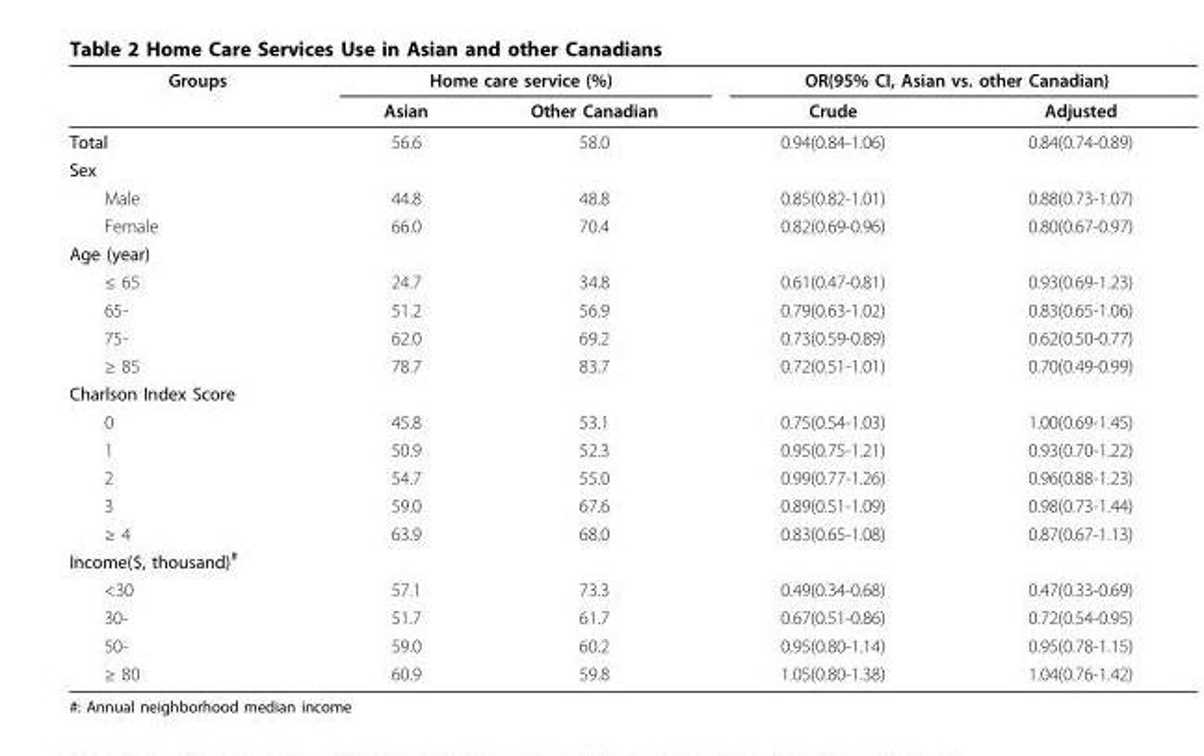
<table><thead><tr><td rowspan="2">Groups</td><td colspan="2">Home care service (%)</td><td colspan="2">OR(95% CI, Asian vs. other Canadian)</td></tr><tr><td>Asian</td><td>Other Canadian</td><td>Crude</td><td>Adjusted</td></tr></thead><tbody><tr><td>Total</td><td>56.6</td><td>58.0</td><td>0.94(0.84-1.06)</td><td>0.84(0.74-0.89)</td></tr><tr><td colspan="5">Sex</td></tr><tr><td>Male</td><td>44.8</td><td>48.8</td><td>0.85(0.82-1.01)</td><td>0.88(0.73-1.07)</td></tr><tr><td>Female</td><td>66.0</td><td>70.4</td><td>0.82(0.69-0.96)</td><td>0.80(0.67-0.97)</td></tr><tr><td colspan="5">Age (year)</td></tr><tr><td>≤ 65</td><td>24.7</td><td>34.8</td><td>0.61(0.47-0.81)</td><td>0.93(0.69-1.23)</td></tr><tr><td>65-</td><td>51.2</td><td>56.9</td><td>0.79(0.63-1.02)</td><td>0.83(0.65-1.06)</td></tr><tr><td>75-</td><td>62.0</td><td>69.2</td><td>0.73(0.59-0.89)</td><td>0.62(0.50-0.77)</td></tr><tr><td>≥ 85</td><td>78.7</td><td>83.7</td><td>0.72(0.51-1.01)</td><td>0.70(0.49-0.99)</td></tr><tr><td colspan="5">Charlson Index Score</td></tr><tr><td>0</td><td>45.8</td><td>53.1</td><td>0.75(0.54-1.03)</td><td>1.00(0.69-1.45)</td></tr><tr><td>1</td><td>50.9</td><td>52.3</td><td>0.95(0.75-1.21)</td><td>0.93(0.70-1.22)</td></tr><tr><td>2</td><td>54.7</td><td>55.0</td><td>0.99(0.77-1.26)</td><td>0.96(0.88-1.23)</td></tr><tr><td>3</td><td>59.0</td><td>67.6</td><td>0.89(0.51-1.09)</td><td>0.98(0.73-1.44)</td></tr><tr><td>≥ 4</td><td>63.9</td><td>68.0</td><td>0.83(0.65-1.08)</td><td>0.87(0.67-1.13)</td></tr><tr><td colspan="5">Income($, thousand)<sup>#</sup></td></tr><tr><td>&lt;30</td><td>57.1</td><td>73.3</td><td>0.49(0.34-0.68)</td><td>0.47(0.33-0.69)</td></tr><tr><td>30-</td><td>51.7</td><td>61.7</td><td>0.67(0.51-0.86)</td><td>0.72(0.54-0.95)</td></tr><tr><td>50-</td><td>59.0</td><td>60.2</td><td>0.95(0.80-1.14)</td><td>0.95(0.78-1.15)</td></tr><tr><td>≥ 80</td><td>60.9</td><td>59.8</td><td>1.05(0.80-1.38)</td><td>1.04(0.76-1.42)</td></tr></tbody></table>